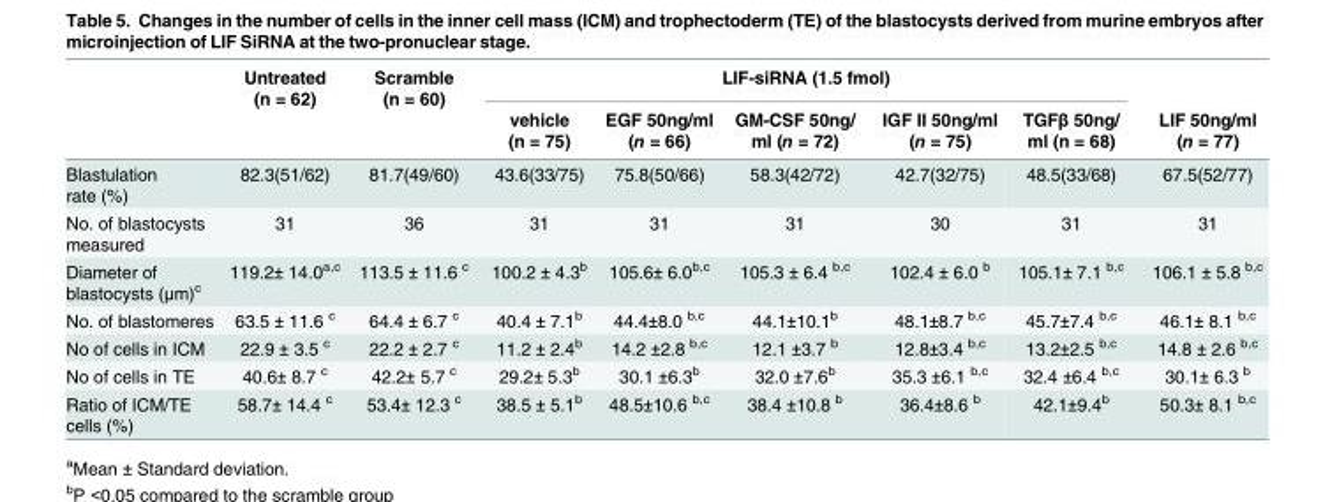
<table><thead><tr><td rowspan="2"></td><td rowspan="2">Untreated (n = 62)</td><td rowspan="2">Scramble (n = 60)</td><td colspan="5">LIF-siRNA (1.5 fmol)</td><td rowspan="2">LIF 50ng/ml (n = 77)</td></tr><tr><td>vehicle (n = 75)</td><td>EGF 50ng/ml (n = 66)</td><td>GM-CSF 50ng/ ml (n = 72)</td><td>IGF II 50ng/ml (n = 75)</td><td>TGFβ 50ng/ ml (n = 68)</td></tr></thead><tbody><tr><td>Blastulation rate (%)</td><td>82.3(51/62)</td><td>81.7(49/60)</td><td>43.6(33/75)</td><td>75.8(50/66)</td><td>58.3(42/72)</td><td>42.7(32/75)</td><td>48.5(33/68)</td><td>67.5(52/77)</td></tr><tr><td>No. of blastocysts measured</td><td>31</td><td>36</td><td>31</td><td>31</td><td>31</td><td>30</td><td>31</td><td>31</td></tr><tr><td>Diameter of blastocysts (μm)<sup>c</sup></td><td>119.2± 14.0<sup>a,c</sup></td><td>113.5 ± 11.6 <sup>c</sup></td><td>100.2 ± 4.3<sup>b</sup></td><td>105.6± 6.0<sup>b,c</sup></td><td>105.3 ± 6.4 <sup>b,c</sup></td><td>102.4 ± 6.0 <sup>b</sup></td><td>105.1± 7.1 <sup>b,c</sup></td><td>106.1 ± 5.8 <sup>b,c</sup></td></tr><tr><td>No. of blastomeres</td><td>63.5 ± 11.6 <sup>c</sup></td><td>64.4 ± 6.7 <sup>c</sup></td><td>40.4 ± 7.1<sup>b</sup></td><td>44.4±8.0 <sup>b,c</sup></td><td>44.1±10.1<sup>b</sup></td><td>48.1±8.7 <sup>b,c</sup></td><td>45.7±7.4 <sup>b,c</sup></td><td>46.1± 8.1 <sup>b,c</sup></td></tr><tr><td>No of cells in ICM</td><td>22.9 ± 3.5 <sup>c</sup></td><td>22.2 ± 2.7 <sup>c</sup></td><td>11.2 ± 2.4<sup>b</sup></td><td>14.2 ±2.8 <sup>b,c</sup></td><td>12.1 ±3.7 <sup>b</sup></td><td>12.8±3.4 <sup>b,c</sup></td><td>13.2±2.5 <sup>b,c</sup></td><td>14.8 ± 2.6 <sup>b,c</sup></td></tr><tr><td>No of cells in TE</td><td>40.6± 8.7 <sup>c</sup></td><td>42.2± 5.7 <sup>c</sup></td><td>29.2± 5.3<sup>b</sup></td><td>30.1 ±6.3<sup>b</sup></td><td>32.0 ±7.6<sup>b</sup></td><td>35.3 ±6.1 <sup>b,c</sup></td><td>32.4 ±6.4 <sup>b,c</sup></td><td>30.1± 6.3 <sup>b</sup></td></tr><tr><td>Ratio of ICM/TE cells (%)</td><td>58.7± 14.4 <sup>c</sup></td><td>53.4± 12.3 <sup>c</sup></td><td>38.5 ± 5.1<sup>b</sup></td><td>48.5±10.6 <sup>b,c</sup></td><td>38.4 ±10.8 <sup>b</sup></td><td>36.4±8.6 <sup>b</sup></td><td>42.1±9.4<sup>b</sup></td><td>50.3± 8.1 <sup>b,c</sup></td></tr></tbody></table>